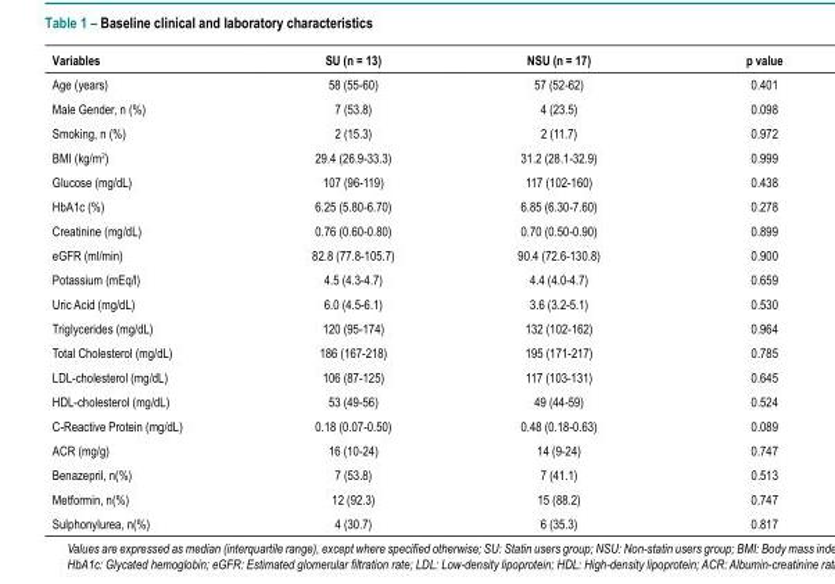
<table><thead><tr><td>Variables</td><td>SU (n = 13)</td><td>NSU (n = 17)</td><td>p value</td></tr></thead><tbody><tr><td>Age (years)</td><td>58 (55-60)</td><td>57 (52-62)</td><td>0.401</td></tr><tr><td>Male Gender, n (%)</td><td>7 (53.8)</td><td>4 (23.5)</td><td>0.098</td></tr><tr><td>Smoking, n (%)</td><td>2 (15.3)</td><td>2 (11.7)</td><td>0.972</td></tr><tr><td>BMI (kg/m<sup>2</sup>)</td><td>29.4 (26.9-33.3)</td><td>31.2 (28.1-32.9)</td><td>0.999</td></tr><tr><td>Glucose (mg/dL)</td><td>107 (96-119)</td><td>117 (102-160)</td><td>0.438</td></tr><tr><td>HbA1c (%)</td><td>6.25 (5.80-6.70)</td><td>6.85 (6.30-7.60)</td><td>0.278</td></tr><tr><td>Creatinine (mg/dL)</td><td>0.76 (0.60-0.80)</td><td>0.70 (0.50-0.90)</td><td>0.899</td></tr><tr><td>eGFR (ml/min)</td><td>82.8 (77.8-105.7)</td><td>90.4 (72.6-130.8)</td><td>0.900</td></tr><tr><td>Potassium (mEq/l)</td><td>4.5 (4.3-4.7)</td><td>4.4 (4.0-4.7)</td><td>0.659</td></tr><tr><td>Uric Acid (mg/dL)</td><td>6.0 (4.5-6.1)</td><td>3.6 (3.2-5.1)</td><td>0.530</td></tr><tr><td>Triglycerides (mg/dL)</td><td>120 (95-174)</td><td>132 (102-162)</td><td>0.964</td></tr><tr><td>Total Cholesterol (mg/dL)</td><td>186 (167-218)</td><td>195 (171-217)</td><td>0.785</td></tr><tr><td>LDL-cholesterol (mg/dL)</td><td>106 (87-125)</td><td>117 (103-131)</td><td>0.645</td></tr><tr><td>HDL-cholesterol (mg/dL)</td><td>53 (49-56)</td><td>49 (44-59)</td><td>0.524</td></tr><tr><td>C-Reactive Protein (mg/dL)</td><td>0.18 (0.07-0.50)</td><td>0.48 (0.18-0.63)</td><td>0.089</td></tr><tr><td>ACR (mg/g)</td><td>16 (10-24)</td><td>14 (9-24)</td><td>0.747</td></tr><tr><td>Benazepril, n(%)</td><td>7 (53.8)</td><td>7 (41.1)</td><td>0.513</td></tr><tr><td>Metformin, n(%)</td><td>12 (92.3)</td><td>15 (88.2)</td><td>0.747</td></tr><tr><td>Sulphonylurea, n(%)</td><td>4 (30.7)</td><td>6 (35.3)</td><td>0.817</td></tr></tbody></table>